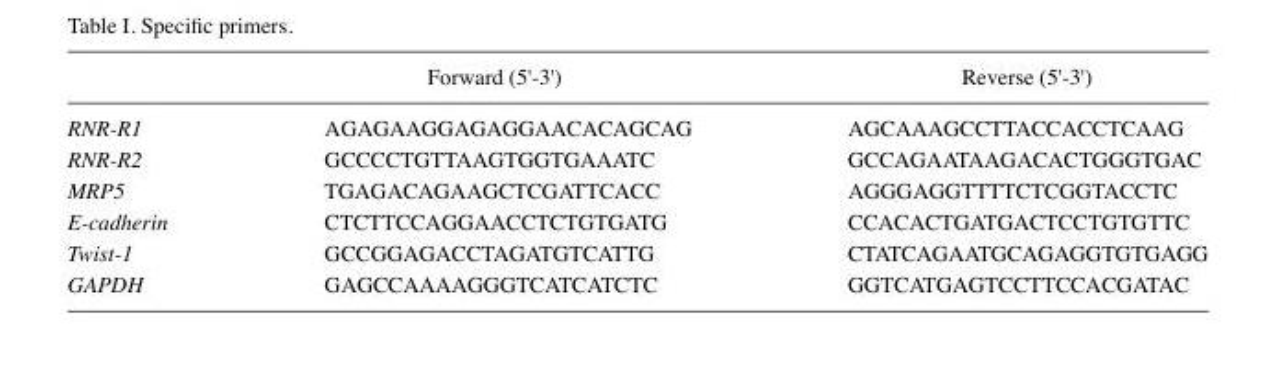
<table><thead><tr><td></td><td>Forward (5&#x27;-3&#x27;)</td><td>Reverse (5&#x27;-3&#x27;)</td></tr></thead><tbody><tr><td>RNR-R1</td><td>AGAGAAGGAGAGGAACACAGCAG</td><td>AGCAAAGCCTTACCACCTCAAG</td></tr><tr><td>RNR-R2</td><td>GCCCCTGTTAAGTGGTGAAATC</td><td>GCCAGAATAAGACACTGGGTGAC</td></tr><tr><td>MRP5</td><td>TGAGACAGAAGCTCGATTCACC</td><td>AGGGAGGTTTTCTCGGTACCTC</td></tr><tr><td>E-cadherin</td><td>CTCTTCCAGGAACCTCTGTGATG</td><td>CCACACTGATGACTCCTGTGTTC</td></tr><tr><td>Twist-1</td><td>GCCGGAGACCTAGATGTCATTG</td><td>CTATCAGAATGCAGAGGTGTGAGG</td></tr><tr><td>GAPDH</td><td>GAGCCAAAAGGGTCATCATCTC</td><td>GGTCATGAGTCCTTCCACGATAC</td></tr></tbody></table>